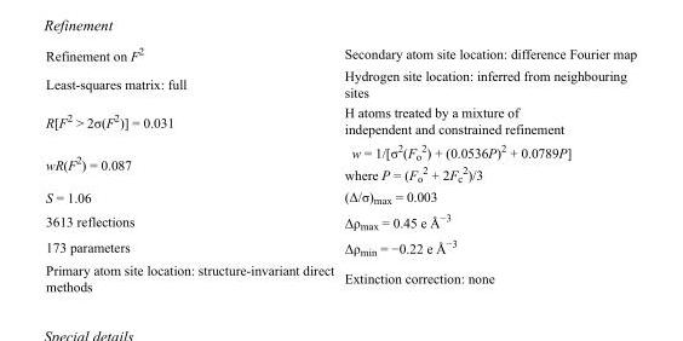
<table><tbody><tr><td>Refinement on F<sup>2</sup></td><td>Secondary atom site location: difference Fourier map</td></tr><tr><td>Least-squares matrix: full</td><td>Hydrogen site location: inferred from neighbouring sites</td></tr><tr><td>R[F<sup>2</sup> &gt; 2σ(F<sup>2</sup>)] = 0.031</td><td>H atoms treated by a mixture of independent and constrained refinement</td></tr><tr><td>wR(F<sup>2</sup>) = 0.087</td><td>w = 1/[σ<sup>2</sup>(F<sub>o</sub> <sup>2</sup>) + (0.0536P)<sup>2</sup> + 0.0789P] where P = (F<sub>o</sub> <sup>2</sup> + 2F<sub>c</sub> <sup>2</sup>)/3</td></tr><tr><td>S = 1.06</td><td>(Δ/σ)<sub>max</sub> = 0.003</td></tr><tr><td>3613 reflections</td><td>Δρ<sub>max</sub> = 0.45 e Å<sup>−3</sup></td></tr><tr><td>173 parameters</td><td>Δρ<sub>min</sub> = −0.22 e Å<sup>−3</sup></td></tr><tr><td>Primary atom site location: structure-invariant direct methods</td><td>Extinction correction: none</td></tr></tbody></table>